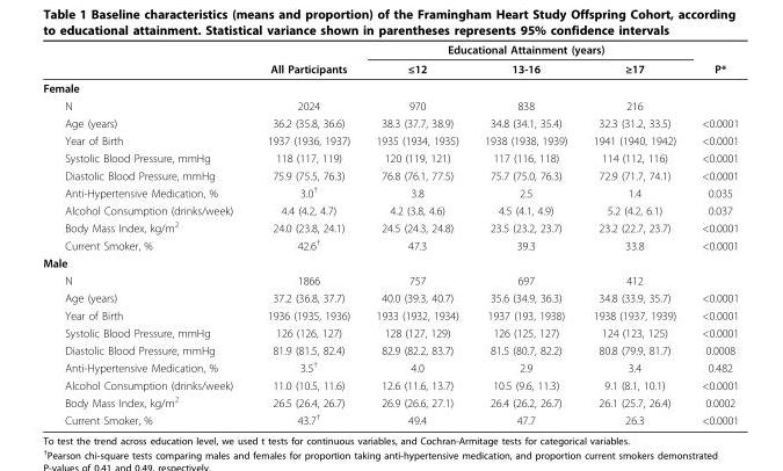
<table><thead><tr><td rowspan="2"></td><td rowspan="2">All Participants</td><td colspan="3">Educational Attainment (years)</td><td rowspan="2">P*</td></tr><tr><td>≤12</td><td>13-16</td><td>≥17</td></tr></thead><tbody><tr><td colspan="6">Female</td></tr><tr><td>N</td><td>2024</td><td>970</td><td>838</td><td>216</td><td></td></tr><tr><td>Age (years)</td><td>36.2 (35.8, 36.6)</td><td>38.3 (37.7, 38.9)</td><td>34.8 (34.1, 35.4)</td><td>32.3 (31.2, 33.5)</td><td>&lt;0.0001</td></tr><tr><td>Year of Birth</td><td>1937 (1936, 1937)</td><td>1935 (1934, 1935)</td><td>1938 (1938, 1939)</td><td>1941 (1940, 1942)</td><td>&lt;0.0001</td></tr><tr><td>Systolic Blood Pressure, mmHg</td><td>118 (117, 119)</td><td>120 (119, 121)</td><td>117 (116, 118)</td><td>114 (112, 116)</td><td>&lt;0.0001</td></tr><tr><td>Diastolic Blood Pressure, mmHg</td><td>75.9 (75.5, 76.3)</td><td>76.8 (76.1, 77.5)</td><td>75.7 (75.0, 76.3)</td><td>72.9 (71.7, 74.1)</td><td>&lt;0.0001</td></tr><tr><td>Anti-Hypertensive Medication, %</td><td>3.0<sup>†</sup></td><td>3.8</td><td>2.5</td><td>1.4</td><td>0.035</td></tr><tr><td>Alcohol Consumption (drinks/week)</td><td>4.4 (4.2, 4.7)</td><td>4.2 (3.8, 4.6)</td><td>4.5 (4.1, 4.9)</td><td>5.2 (4.2, 6.1)</td><td>0.037</td></tr><tr><td>Body Mass Index, kg/m<sup>2</sup></td><td>24.0 (23.8, 24.1)</td><td>24.5 (24.3, 24.8)</td><td>23.5 (23.2, 23.7)</td><td>23.2 (22.7, 23.7)</td><td>&lt;0.0001</td></tr><tr><td>Current Smoker, %</td><td>42.6<sup>†</sup></td><td>47.3</td><td>39.3</td><td>33.8</td><td>&lt;0.0001</td></tr><tr><td colspan="6">Male</td></tr><tr><td>N</td><td>1866</td><td>757</td><td>697</td><td>412</td><td></td></tr><tr><td>Age (years)</td><td>37.2 (36.8, 37.7)</td><td>40.0 (39.3, 40.7)</td><td>35.6 (34.9, 36.3)</td><td>34.8 (33.9, 35.7)</td><td>&lt;0.0001</td></tr><tr><td>Year of Birth</td><td>1936 (1935, 1936)</td><td>1933 (1932, 1934)</td><td>1937 (193, 1938)</td><td>1938 (1937, 1939)</td><td>&lt;0.0001</td></tr><tr><td>Systolic Blood Pressure, mmHg</td><td>126 (126, 127)</td><td>128 (127, 129)</td><td>126 (125, 127)</td><td>124 (123, 125)</td><td>&lt;0.0001</td></tr><tr><td>Diastolic Blood Pressure, mmHg</td><td>81.9 (81.5, 82.4)</td><td>82.9 (82.2, 83.7)</td><td>81.5 (80.7, 82.2)</td><td>80.8 (79.9, 81.7)</td><td>0.0008</td></tr><tr><td>Anti-Hypertensive Medication, %</td><td>3.5<sup>†</sup></td><td>4.0</td><td>2.9</td><td>3.4</td><td>0.482</td></tr><tr><td>Alcohol Consumption (drinks/week)</td><td>11.0 (10.5, 11.6)</td><td>12.6 (11.6, 13.7)</td><td>10.5 (9.6, 11.3)</td><td>9.1 (8.1, 10.1)</td><td>&lt;0.0001</td></tr><tr><td>Body Mass Index, kg/m<sup>2</sup></td><td>26.5 (26.4, 26.7)</td><td>26.9 (26.6, 27.1)</td><td>26.4 (26.2, 26.7)</td><td>26.1 (25.7, 26.4)</td><td>0.0002</td></tr><tr><td>Current Smoker, %</td><td>43.7<sup>†</sup></td><td>49.4</td><td>47.7</td><td>26.3</td><td>&lt;0.0001</td></tr></tbody></table>